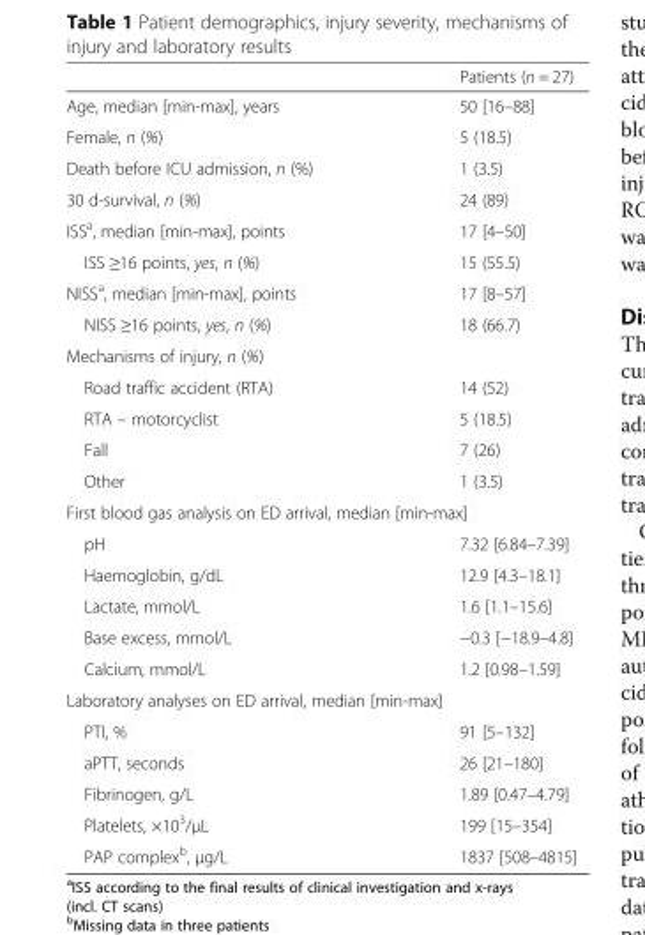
<table><thead><tr><td></td><td>Patients (n = 27)</td></tr></thead><tbody><tr><td>Age, median [min-max], years</td><td>50 [16–88]</td></tr><tr><td>Female, n (%)</td><td>5 (18.5)</td></tr><tr><td>Death before ICU admission, n (%)</td><td>1 (3.5)</td></tr><tr><td>30 d-survival, n (%)</td><td>24 (89)</td></tr><tr><td>ISS<sup>a</sup>, median [min-max], points</td><td>17 [4–50]</td></tr><tr><td>ISS ≥16 points, yes, n (%)</td><td>15 (55.5)</td></tr><tr><td>NISS<sup>a</sup>, median [min-max], points</td><td>17 [8–57]</td></tr><tr><td>NISS ≥16 points, yes, n (%)</td><td>18 (66.7)</td></tr><tr><td colspan="2">Mechanisms of injury, n (%)</td></tr><tr><td>Road traffic accident (RTA)</td><td>14 (52)</td></tr><tr><td>RTA – motorcyclist</td><td>5 (18.5)</td></tr><tr><td>Fall</td><td>7 (26)</td></tr><tr><td>Other</td><td>1 (3.5)</td></tr><tr><td colspan="2">First blood gas analysis on ED arrival, median [min-max]</td></tr><tr><td>pH</td><td>7.32 [6.84–7.39]</td></tr><tr><td>Haemoglobin, g/dL</td><td>12.9 [4.3–18.1]</td></tr><tr><td>Lactate, mmol/L</td><td>1.6 [1.1–15.6]</td></tr><tr><td>Base excess, mmol/L</td><td>−0.3 [−18.9–4.8]</td></tr><tr><td>Calcium, mmol/L</td><td>1.2 [0.98–1.59]</td></tr><tr><td colspan="2">Laboratory analyses on ED arrival, median [min-max]</td></tr><tr><td>PTI, %</td><td>91 [5–132]</td></tr><tr><td>aPTT, seconds</td><td>26 [21–180]</td></tr><tr><td>Fibrinogen, g/L</td><td>1.89 [0.47–4.79]</td></tr><tr><td>Platelets, ×10<sup>3</sup>/μL</td><td>199 [15–354]</td></tr><tr><td>PAP complex<sup>b</sup>, μg/L</td><td>1837 [508–4815]</td></tr></tbody></table>